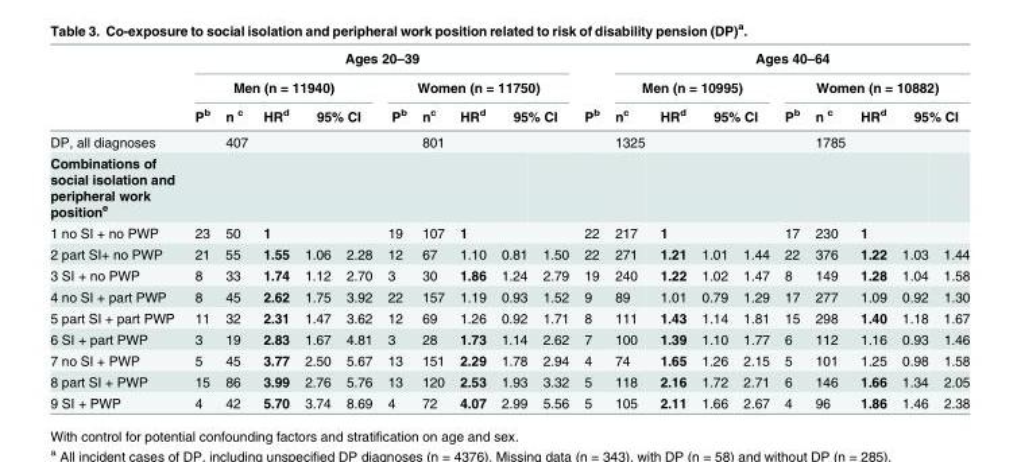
<table><thead><tr><td rowspan="4">DP, all diagnoses</td><td colspan="10">Ages 20–39</td><td rowspan="4">P<sup>b</sup></td><td colspan="9">Ages 40–64</td></tr><tr><td colspan="5">Men (n = 11940)</td><td colspan="5">Women (n = 11750)</td><td colspan="4">Men (n = 10995)</td><td colspan="5">Women (n = 10882)</td></tr><tr><td rowspan="2">P<sup>b</sup></td><td rowspan="2">n <sup>c</sup> 407</td><td rowspan="2">HR<sup>d</sup></td><td colspan="2">95% CI</td><td rowspan="2">P<sup>b</sup></td><td rowspan="2">n<sup>c</sup> 801</td><td rowspan="2">HR<sup>d</sup></td><td colspan="2">95% CI</td><td rowspan="2">n<sup>c</sup> 1325</td><td rowspan="2">HR<sup>d</sup></td><td colspan="2">95% CI</td><td rowspan="2">P<sup>b</sup></td><td rowspan="2">n <sup>c</sup> 1785</td><td rowspan="2">HR<sup>d</sup></td><td colspan="2">95% CI</td></tr><tr><td></td><td></td><td></td><td></td><td></td><td></td><td></td><td></td></tr></thead><tbody><tr><td colspan="21">Combinations of social isolation and peripheral work position<sup>e</sup></td></tr><tr><td>1 no SI + no PWP</td><td>23</td><td>50</td><td>1</td><td></td><td></td><td>19</td><td>107</td><td>1</td><td></td><td></td><td>22</td><td>217</td><td>1</td><td></td><td></td><td>17</td><td>230</td><td>1</td><td></td><td></td></tr><tr><td>2 part SI+ no PWP</td><td>21</td><td>55</td><td>1.55</td><td>1.06</td><td>2.28</td><td>12</td><td>67</td><td>1.10</td><td>0.81</td><td>1.50</td><td>22</td><td>271</td><td>1.21</td><td>1.01</td><td>1.44</td><td>22</td><td>376</td><td>1.22</td><td>1.03</td><td>1.44</td></tr><tr><td>3 SI + no PWP</td><td>8</td><td>33</td><td>1.74</td><td>1.12</td><td>2.70</td><td>3</td><td>30</td><td>1.86</td><td>1.24</td><td>2.79</td><td>19</td><td>240</td><td>1.22</td><td>1.02</td><td>1.47</td><td>8</td><td>149</td><td>1.28</td><td>1.04</td><td>1.58</td></tr><tr><td>4 no SI + part PWP</td><td>8</td><td>45</td><td>2.62</td><td>1.75</td><td>3.92</td><td>22</td><td>157</td><td>1.19</td><td>0.93</td><td>1.52</td><td>9</td><td>89</td><td>1.01</td><td>0.79</td><td>1.29</td><td>17</td><td>277</td><td>1.09</td><td>0.92</td><td>1.30</td></tr><tr><td>5 part SI + part PWP</td><td>11</td><td>32</td><td>2.31</td><td>1.47</td><td>3.62</td><td>12</td><td>69</td><td>1.26</td><td>0.92</td><td>1.71</td><td>8</td><td>111</td><td>1.43</td><td>1.14</td><td>1.81</td><td>15</td><td>298</td><td>1.40</td><td>1.18</td><td>1.67</td></tr><tr><td>6 SI + part PWP</td><td>3</td><td>19</td><td>2.83</td><td>1.67</td><td>4.81</td><td>3</td><td>28</td><td>1.73</td><td>1.14</td><td>2.62</td><td>7</td><td>100</td><td>1.39</td><td>1.10</td><td>1.77</td><td>6</td><td>112</td><td>1.16</td><td>0.93</td><td>1.46</td></tr><tr><td>7 no SI + PWP</td><td>5</td><td>45</td><td>3.77</td><td>2.50</td><td>5.67</td><td>13</td><td>151</td><td>2.29</td><td>1.78</td><td>2.94</td><td>4</td><td>74</td><td>1.65</td><td>1.26</td><td>2.15</td><td>5</td><td>101</td><td>1.25</td><td>0.98</td><td>1.58</td></tr><tr><td>8 part SI + PWP</td><td>15</td><td>86</td><td>3.99</td><td>2.76</td><td>5.76</td><td>13</td><td>120</td><td>2.53</td><td>1.93</td><td>3.32</td><td>5</td><td>118</td><td>2.16</td><td>1.72</td><td>2.71</td><td>6</td><td>146</td><td>1.66</td><td>1.34</td><td>2.05</td></tr><tr><td>9 SI + PWP</td><td>4</td><td>42</td><td>5.70</td><td>3.74</td><td>8.69</td><td>4</td><td>72</td><td>4.07</td><td>2.99</td><td>5.56</td><td>5</td><td>105</td><td>2.11</td><td>1.66</td><td>2.67</td><td>4</td><td>96</td><td>1.86</td><td>1.46</td><td>2.38</td></tr></tbody></table>